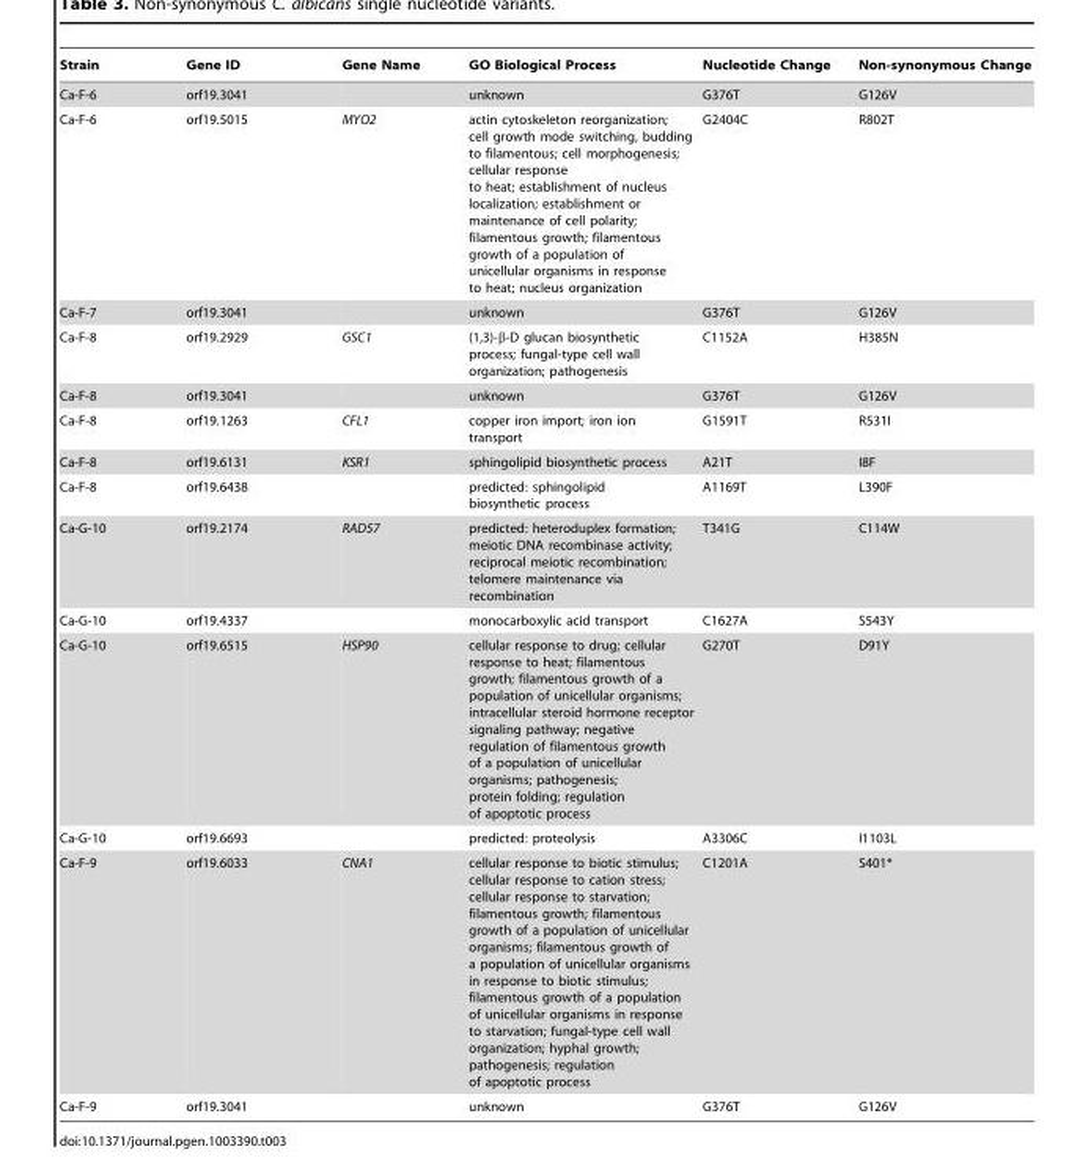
<table><thead><tr><td>Strain</td><td>Gene ID</td><td>Gene Name</td><td>GO Biological Process</td><td>Nucleotide Change</td><td>Non-synonymous Change</td></tr></thead><tbody><tr><td>Ca-F-6</td><td>orf19.3041</td><td></td><td>unknown</td><td>G376T</td><td>G126V</td></tr><tr><td>Ca-F-6</td><td>orf19.5015</td><td>MYO2</td><td>actin cytoskeleton reorganization; cell growth mode switching, budding to filamentous; cell morphogenesis; cellular response to heat; establishment of nucleus localization; establishment or maintenance of cell polarity; filamentous growth; filamentous growth of a population of unicellular organisms in response to heat; nucleus organization</td><td>G2404C</td><td>R802T</td></tr><tr><td>Ca-F-7</td><td>orf19.3041</td><td></td><td>unknown</td><td>G376T</td><td>G126V</td></tr><tr><td>Ca-F-8</td><td>orf19.2929</td><td>GSC1</td><td>(1,3)-β-D glucan biosynthetic process; fungal-type cell wall organization; pathogenesis</td><td>C1152A</td><td>H385N</td></tr><tr><td>Ca-F-8</td><td>orf19.3041</td><td></td><td>unknown</td><td>G376T</td><td>G126V</td></tr><tr><td>Ca-F-8</td><td>orf19.1263</td><td>CFL1</td><td>copper iron import; iron ion transport</td><td>G1591T</td><td>R531I</td></tr><tr><td>Ca-F-8</td><td>orf19.6131</td><td>KSR1</td><td>sphingolipid biosynthetic process</td><td>A21T</td><td>I8F</td></tr><tr><td>Ca-F-8</td><td>orf19.6438</td><td></td><td>predicted: sphingolipid biosynthetic process</td><td>A1169T</td><td>L390F</td></tr><tr><td>Ca-G-10</td><td>orf19.2174</td><td>RAD57</td><td>predicted: heteroduplex formation; meiotic DNA recombinase activity; reciprocal meiotic recombination; telomere maintenance via recombination</td><td>T341G</td><td>C114W</td></tr><tr><td>Ca-G-10</td><td>orf19.4337</td><td></td><td>monocarboxylic acid transport</td><td>C1627A</td><td>S543Y</td></tr><tr><td>Ca-G-10</td><td>orf19.6515</td><td>HSP90</td><td>cellular response to drug; cellular response to heat; filamentous growth; filamentous growth of a population of unicellular organisms; intracellular steroid hormone receptor signaling pathway; negative regulation of filamentous growth of a population of unicellular organisms; pathogenesis; protein folding; regulation of apoptotic process</td><td>G270T</td><td>D91Y</td></tr><tr><td>Ca-G-10</td><td>orf19.6693</td><td></td><td>predicted: proteolysis</td><td>A3306C</td><td>I1103L</td></tr><tr><td>Ca-F-9</td><td>orf19.6033</td><td>CNA1</td><td>cellular response to biotic stimulus; cellular response to cation stress; cellular response to starvation; filamentous growth; filamentous growth of a population of unicellular organisms; filamentous growth of a population of unicellular organisms in response to biotic stimulus; filamentous growth of a population of unicellular organisms in response to starvation; fungal-type cell wall organization; hyphal growth; pathogenesis; regulation of apoptotic process</td><td>C1201A</td><td>S401*</td></tr><tr><td>Ca-F-9</td><td>orf19.3041</td><td></td><td>unknown</td><td>G376T</td><td>G126V</td></tr></tbody></table>